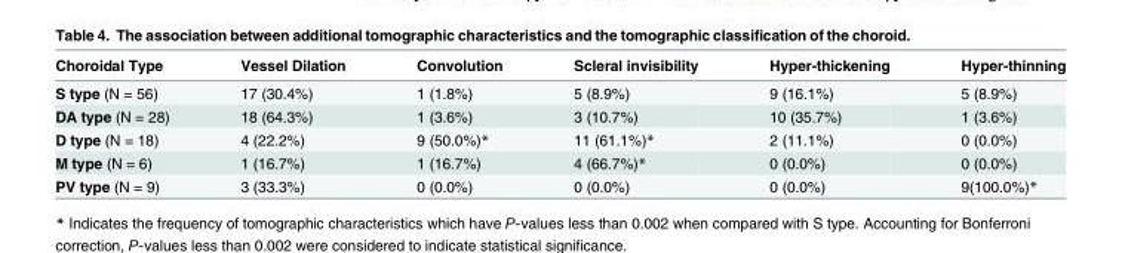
<table><thead><tr><td>Choroidal Type</td><td>Vessel Dilation</td><td>Convolution</td><td>Scleral invisibility</td><td>Hyper-thickening</td><td>Hyper-thinning</td></tr></thead><tbody><tr><td>S type (N = 56)</td><td>17 (30.4%)</td><td>1 (1.8%)</td><td>5 (8.9%)</td><td>9 (16.1%)</td><td>5 (8.9%)</td></tr><tr><td>DA type (N = 28)</td><td>18 (64.3%)</td><td>1 (3.6%)</td><td>3 (10.7%)</td><td>10 (35.7%)</td><td>1 (3.6%)</td></tr><tr><td>D type (N = 18)</td><td>4 (22.2%)</td><td>9 (50.0%)*</td><td>11 (61.1%)*</td><td>2 (11.1%)</td><td>0 (0.0%)</td></tr><tr><td>M type (N = 6)</td><td>1 (16.7%)</td><td>1 (16.7%)</td><td>4 (66.7%)*</td><td>0 (0.0%)</td><td>0 (0.0%)</td></tr><tr><td>PV type (N = 9)</td><td>3 (33.3%)</td><td>0 (0.0%)</td><td>0 (0.0%)</td><td>0 (0.0%)</td><td>9(100.0%)*</td></tr></tbody></table>